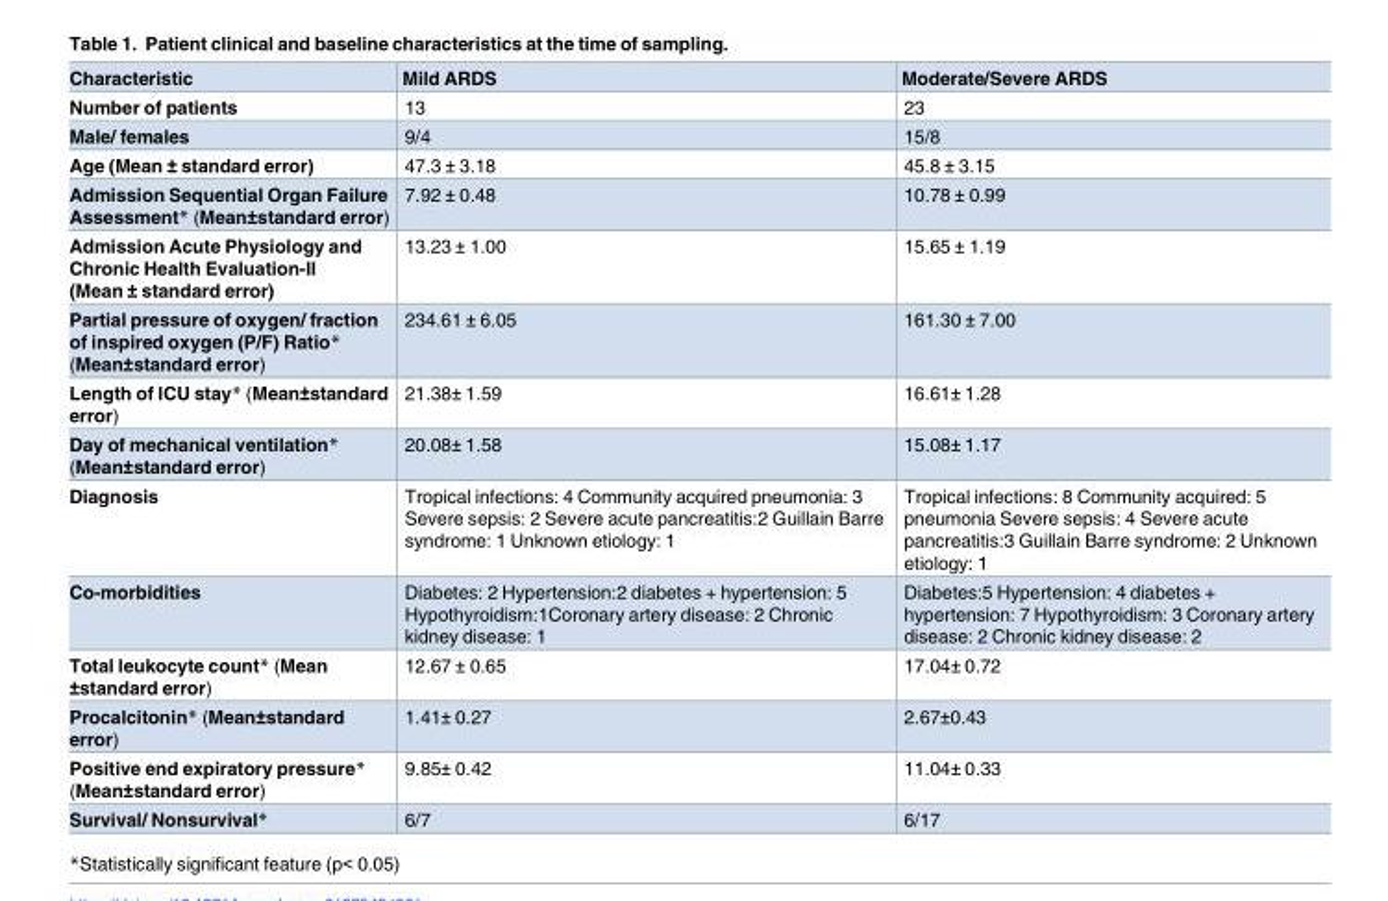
<table><thead><tr><td>Characteristic</td><td>Mild ARDS</td><td>Moderate/Severe ARDS</td></tr></thead><tbody><tr><td>Number of patients</td><td>13</td><td>23</td></tr><tr><td>Male/ females</td><td>9/4</td><td>15/8</td></tr><tr><td>Age (Mean ± standard error)</td><td>47.3 ± 3.18</td><td>45.8 ± 3.15</td></tr><tr><td>Admission Sequential Organ Failure Assessment* (Mean±standard error)</td><td>7.92 ± 0.48</td><td>10.78 ± 0.99</td></tr><tr><td>Admission Acute Physiology and Chronic Health Evaluation-II (Mean ± standard error)</td><td>13.23 ± 1.00</td><td>15.65 ± 1.19</td></tr><tr><td>Partial pressure of oxygen/ fraction of inspired oxygen (P/F) Ratio* (Mean±standard error)</td><td>234.61 ± 6.05</td><td>161.30 ± 7.00</td></tr><tr><td>Length of ICU stay* (Mean±standard error)</td><td>21.38± 1.59</td><td>16.61± 1.28</td></tr><tr><td>Day of mechanical ventilation* (Mean±standard error)</td><td>20.08± 1.58</td><td>15.08± 1.17</td></tr><tr><td>Diagnosis</td><td>Tropical infections: 4 Community acquired pneumonia: 3 Severe sepsis: 2 Severe acute pancreatitis:2 Guillain Barre syndrome: 1 Unknown etiology: 1</td><td>Tropical infections: 8 Community acquired: 5 pneumonia Severe sepsis: 4 Severe acute pancreatitis:3 Guillain Barre syndrome: 2 Unknown etiology: 1</td></tr><tr><td>Co-morbidities</td><td>Diabetes: 2 Hypertension:2 diabetes + hypertension: 5 Hypothyroidism:1Coronary artery disease: 2 Chronic kidney disease: 1</td><td>Diabetes:5 Hypertension: 4 diabetes + hypertension: 7 Hypothyroidism: 3 Coronary artery disease: 2 Chronic kidney disease: 2</td></tr><tr><td>Total leukocyte count* (Mean ±standard error)</td><td>12.67 ± 0.65</td><td>17.04± 0.72</td></tr><tr><td>Procalcitonin* (Mean±standard error)</td><td>1.41± 0.27</td><td>2.67±0.43</td></tr><tr><td>Positive end expiratory pressure* (Mean±standard error)</td><td>9.85± 0.42</td><td>11.04± 0.33</td></tr><tr><td>Survival/ Nonsurvival*</td><td>6/7</td><td>6/17</td></tr></tbody></table>